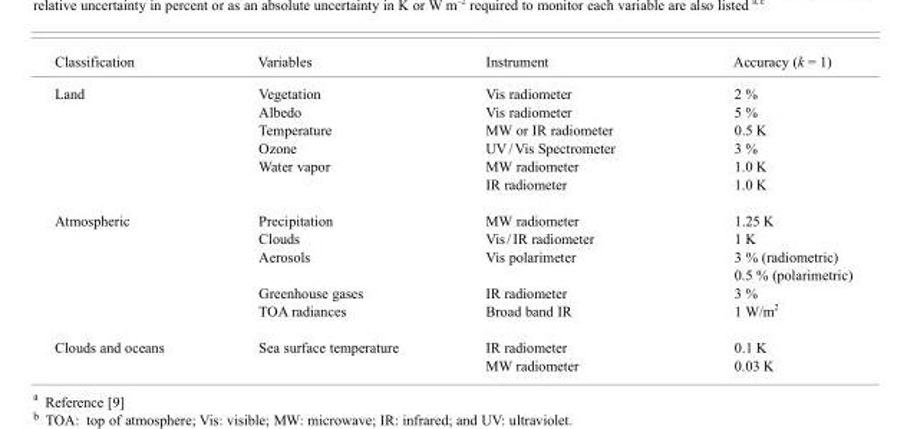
<table><thead><tr><td>Classification</td><td>Variables</td><td>Instrument</td><td>Accuracy (k = 1)</td></tr></thead><tbody><tr><td rowspan="6">Land</td><td>Vegetation</td><td>Vis radiometer</td><td>2 %</td></tr><tr><td>Albedo</td><td>Vis radiometer</td><td>5 %</td></tr><tr><td>Temperature</td><td>MW or IR radiometer</td><td>0.5 K</td></tr><tr><td>Ozone</td><td>UV/Vis Spectrometer</td><td>3 %</td></tr><tr><td>Water vapor</td><td>MW radiometer</td><td>1.0 K</td></tr><tr><td></td><td>IR radiometer</td><td>1.0 K</td></tr><tr><td rowspan="5">Atmospheric</td><td>Precipitation</td><td>MW radiometer</td><td>1.25 K</td></tr><tr><td>Clouds</td><td>Vis/IR radiometer</td><td>1 K</td></tr><tr><td>Aerosols</td><td>Vis polarimeter</td><td>3 % (radiometric) 0.5 % (polarimetric)</td></tr><tr><td>Greenhouse gases</td><td>IR radiometer</td><td>3 %</td></tr><tr><td>TOA radiances</td><td>Broad band IR</td><td>1 W/m<sup>2</sup></td></tr><tr><td rowspan="2">Clouds and oceans</td><td>Sea surface temperature</td><td>IR radiometer</td><td>0.1 K</td></tr><tr><td></td><td>MW radiometer</td><td>0.03 K</td></tr></tbody></table>